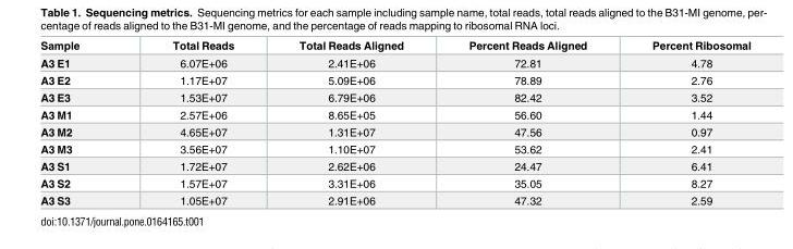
<table><thead><tr><td>Sample</td><td>Total Reads</td><td>Total Reads Aligned</td><td>Percent Reads Aligned</td><td>Percent Ribosomal</td></tr></thead><tbody><tr><td>A3 E1</td><td>6.07E+06</td><td>2.41E+06</td><td>72.81</td><td>4.78</td></tr><tr><td>A3 E2</td><td>1.17E+07</td><td>5.09E+06</td><td>78.89</td><td>2.76</td></tr><tr><td>A3 E3</td><td>1.53E+07</td><td>6.79E+06</td><td>82.42</td><td>3.52</td></tr><tr><td>A3 M1</td><td>2.57E+06</td><td>8.65E+05</td><td>56.60</td><td>1.44</td></tr><tr><td>A3 M2</td><td>4.65E+07</td><td>1.31E+07</td><td>47.56</td><td>0.97</td></tr><tr><td>A3 M3</td><td>3.56E+07</td><td>1.10E+07</td><td>53.62</td><td>2.41</td></tr><tr><td>A3 S1</td><td>1.72E+07</td><td>2.62E+06</td><td>24.47</td><td>6.41</td></tr><tr><td>A3 S2</td><td>1.57E+07</td><td>3.31E+06</td><td>35.05</td><td>8.27</td></tr><tr><td>A3 S3</td><td>1.05E+07</td><td>2.91E+06</td><td>47.32</td><td>2.59</td></tr></tbody></table>